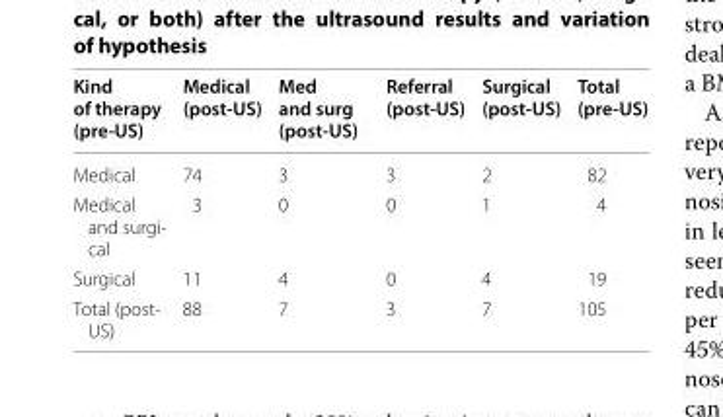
<table><thead><tr><td>Kind of therapy (pre-US)</td><td>Medical (post-US)</td><td>Med and surg (post-US)</td><td>Referral (post-US)</td><td>Surgical (post-US)</td><td>Total (pre-US)</td></tr></thead><tbody><tr><td>Medical</td><td>74</td><td>3</td><td>3</td><td>2</td><td>82</td></tr><tr><td>Medical and surgi- cal</td><td>3</td><td>0</td><td>0</td><td>1</td><td>4</td></tr><tr><td>Surgical</td><td>11</td><td>4</td><td>0</td><td>4</td><td>19</td></tr><tr><td>Total (post- US)</td><td>88</td><td>7</td><td>3</td><td>7</td><td>105</td></tr></tbody></table>